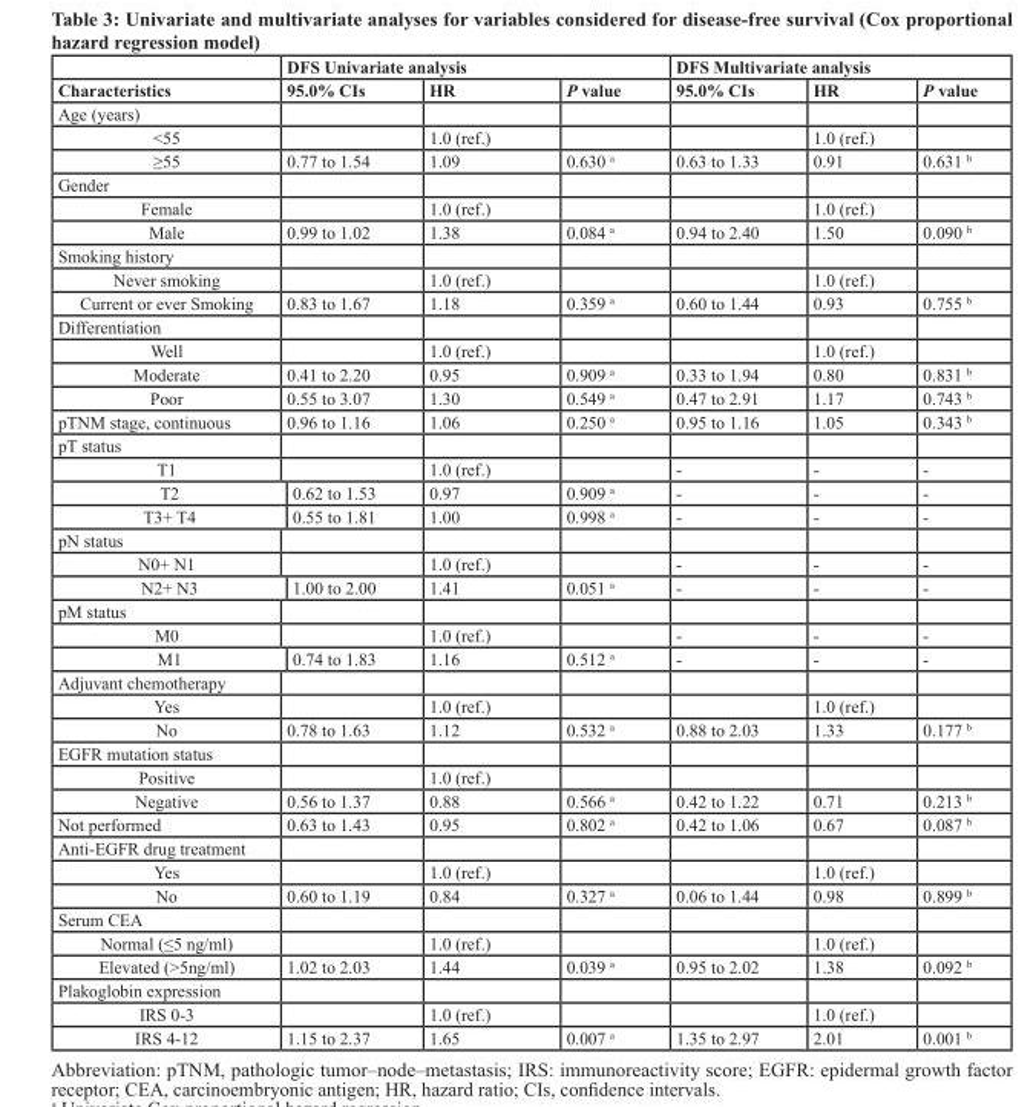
<table><thead><tr><td rowspan="2">Characteristics</td><td colspan="3">DFS Univariate analysis</td><td colspan="3">DFS Multivariate analysis</td></tr><tr><td>95.0% CIs</td><td>HR</td><td>P value</td><td>95.0% CIs</td><td>HR</td><td>P value</td></tr></thead><tbody><tr><td colspan="7">Age (years)</td></tr><tr><td>&lt;55</td><td></td><td>1.0 (ref.)</td><td></td><td></td><td>1.0 (ref.)</td><td></td></tr><tr><td>≥55</td><td>0.77 to 1.54</td><td>1.09</td><td>0.630 <sup>a</sup></td><td>0.63 to 1.33</td><td>0.91</td><td>0.631 <sup>b</sup></td></tr><tr><td colspan="7">Gender</td></tr><tr><td>Female</td><td></td><td>1.0 (ref.)</td><td></td><td></td><td>1.0 (ref.)</td><td></td></tr><tr><td>Male</td><td>0.99 to 1.02</td><td>1.38</td><td>0.084 <sup>a</sup></td><td>0.94 to 2.40</td><td>1.50</td><td>0.090 <sup>b</sup></td></tr><tr><td colspan="7">Smoking history</td></tr><tr><td>Never smoking</td><td></td><td>1.0 (ref.)</td><td></td><td></td><td>1.0 (ref.)</td><td></td></tr><tr><td>Current or ever Smoking</td><td>0.83 to 1.67</td><td>1.18</td><td>0.359 <sup>a</sup></td><td>0.60 to 1.44</td><td>0.93</td><td>0.755 <sup>b</sup></td></tr><tr><td colspan="7">Differentiation</td></tr><tr><td>Well</td><td></td><td>1.0 (ref.)</td><td></td><td></td><td>1.0 (ref.)</td><td></td></tr><tr><td>Moderate</td><td>0.41 to 2.20</td><td>0.95</td><td>0.909 <sup>a</sup></td><td>0.33 to 1.94</td><td>0.80</td><td>0.831 <sup>b</sup></td></tr><tr><td>Poor</td><td>0.55 to 3.07</td><td>1.30</td><td>0.549 <sup>a</sup></td><td>0.47 to 2.91</td><td>1.17</td><td>0.743 <sup>b</sup></td></tr><tr><td>pTNM stage, continuous</td><td>0.96 to 1.16</td><td>1.06</td><td>0.250 <sup>a</sup></td><td>0.95 to 1.16</td><td>1.05</td><td>0.343 <sup>b</sup></td></tr><tr><td colspan="7">pT status</td></tr><tr><td>T1</td><td></td><td>1.0 (ref.)</td><td></td><td>-</td><td>-</td><td>-</td></tr><tr><td>T2</td><td>0.62 to 1.53</td><td>0.97</td><td>0.909 <sup>a</sup></td><td>-</td><td>-</td><td>-</td></tr><tr><td>T3+ T4</td><td>0.55 to 1.81</td><td>1.00</td><td>0.998 <sup>a</sup></td><td>-</td><td>-</td><td>-</td></tr><tr><td colspan="7">pN status</td></tr><tr><td>N0+ N1</td><td></td><td>1.0 (ref.)</td><td></td><td>-</td><td>-</td><td>-</td></tr><tr><td>N2+ N3</td><td>1.00 to 2.00</td><td>1.41</td><td>0.051 <sup>a</sup></td><td>-</td><td>-</td><td>-</td></tr><tr><td colspan="7">pM status</td></tr><tr><td>M0</td><td></td><td>1.0 (ref.)</td><td></td><td>-</td><td>-</td><td>-</td></tr><tr><td>M1</td><td>0.74 to 1.83</td><td>1.16</td><td>0.512 <sup>a</sup></td><td>-</td><td>-</td><td>-</td></tr><tr><td colspan="7">Adjuvant chemotherapy</td></tr><tr><td>Yes</td><td></td><td>1.0 (ref.)</td><td></td><td></td><td>1.0 (ref.)</td><td></td></tr><tr><td>No</td><td>0.78 to 1.63</td><td>1.12</td><td>0.532 <sup>a</sup></td><td>0.88 to 2.03</td><td>1.33</td><td>0.177 <sup>b</sup></td></tr><tr><td colspan="7">EGFR mutation status</td></tr><tr><td>Positive</td><td></td><td>1.0 (ref.)</td><td></td><td></td><td></td><td></td></tr><tr><td>Negative</td><td>0.56 to 1.37</td><td>0.88</td><td>0.566 <sup>a</sup></td><td>0.42 to 1.22</td><td>0.71</td><td>0.213 <sup>b</sup></td></tr><tr><td>Not performed</td><td>0.63 to 1.43</td><td>0.95</td><td>0.802 <sup>a</sup></td><td>0.42 to 1.06</td><td>0.67</td><td>0.087 <sup>b</sup></td></tr><tr><td colspan="7">Anti-EGFR drug treatment</td></tr><tr><td>Yes</td><td></td><td>1.0 (ref.)</td><td></td><td></td><td>1.0 (ref.)</td><td></td></tr><tr><td>No</td><td>0.60 to 1.19</td><td>0.84</td><td>0.327 <sup>a</sup></td><td>0.06 to 1.44</td><td>0.98</td><td>0.899 <sup>b</sup></td></tr><tr><td colspan="7">Serum CEA</td></tr><tr><td>Normal (≤5 ng/ml)</td><td></td><td>1.0 (ref.)</td><td></td><td></td><td>1.0 (ref.)</td><td></td></tr><tr><td>Elevated (&gt;5ng/ml)</td><td>1.02 to 2.03</td><td>1.44</td><td>0.039 <sup>a</sup></td><td>0.95 to 2.02</td><td>1.38</td><td>0.092 <sup>b</sup></td></tr><tr><td colspan="7">Plakoglobin expression</td></tr><tr><td>IRS 0-3</td><td></td><td>1.0 (ref.)</td><td></td><td></td><td>1.0 (ref.)</td><td></td></tr><tr><td>IRS 4-12</td><td>1.15 to 2.37</td><td>1.65</td><td>0.007 <sup>a</sup></td><td>1.35 to 2.97</td><td>2.01</td><td>0.001 <sup>b</sup></td></tr></tbody></table>